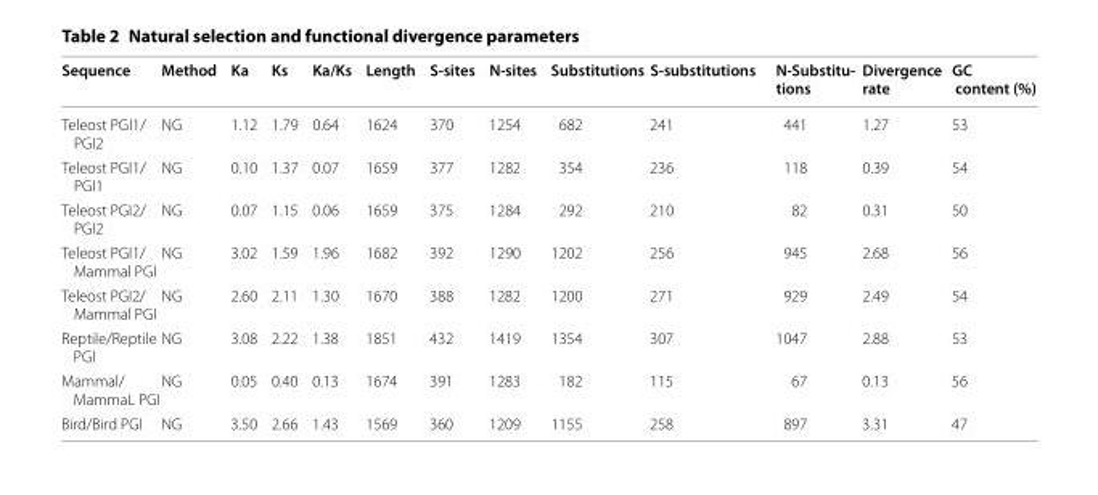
<table><thead><tr><td>Sequence</td><td>Method</td><td>Ka</td><td>Ks</td><td>Ka/Ks</td><td>Length</td><td>S-sites</td><td>N-sites</td><td>Substitutions</td><td>S-substitutions</td><td>N-Substitu- tions</td><td>Divergence rate</td><td>GC content (%)</td></tr></thead><tbody><tr><td>Teleost PGI1/ PGI2</td><td>NG</td><td>1.12</td><td>1.79</td><td>0.64</td><td>1624</td><td>370</td><td>1254</td><td>682</td><td>241</td><td>441</td><td>1.27</td><td>53</td></tr><tr><td>Teleost PGI1/ PGI1</td><td>NG</td><td>0.10</td><td>1.37</td><td>0.07</td><td>1659</td><td>377</td><td>1282</td><td>354</td><td>236</td><td>118</td><td>0.39</td><td>54</td></tr><tr><td>Teleost PGI2/ PGI2</td><td>NG</td><td>0.07</td><td>1.15</td><td>0.06</td><td>1659</td><td>375</td><td>1284</td><td>292</td><td>210</td><td>82</td><td>0.31</td><td>50</td></tr><tr><td>Teleost PGI1/ Mammal PGI</td><td>NG</td><td>3.02</td><td>1.59</td><td>1.96</td><td>1682</td><td>392</td><td>1290</td><td>1202</td><td>256</td><td>945</td><td>2.68</td><td>56</td></tr><tr><td>Teleost PGI2/ Mammal PGI</td><td>NG</td><td>2.60</td><td>2.11</td><td>1.30</td><td>1670</td><td>388</td><td>1282</td><td>1200</td><td>271</td><td>929</td><td>2.49</td><td>54</td></tr><tr><td>Reptile/Reptile PGI</td><td>NG</td><td>3.08</td><td>2.22</td><td>1.38</td><td>1851</td><td>432</td><td>1419</td><td>1354</td><td>307</td><td>1047</td><td>2.88</td><td>53</td></tr><tr><td>Mammal/ MammaL PGI</td><td>NG</td><td>0.05</td><td>0.40</td><td>0.13</td><td>1674</td><td>391</td><td>1283</td><td>182</td><td>115</td><td>67</td><td>0.13</td><td>56</td></tr><tr><td>Bird/Bird PGI</td><td>NG</td><td>3.50</td><td>2.66</td><td>1.43</td><td>1569</td><td>360</td><td>1209</td><td>1155</td><td>258</td><td>897</td><td>3.31</td><td>47</td></tr></tbody></table>